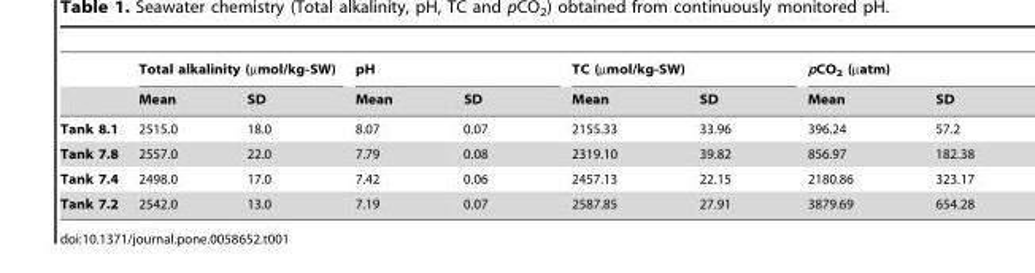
<table><thead><tr><td rowspan="2"></td><td colspan="2">Total alkalinity (µmol/kg-SW)</td><td colspan="2">pH</td><td colspan="2">TC (µmol/kg-SW)</td><td colspan="2">pCO<sub>2</sub> (µatm)</td></tr><tr><td>Mean</td><td>SD</td><td>Mean</td><td>SD</td><td>Mean</td><td>SD</td><td>Mean</td><td>SD</td></tr></thead><tbody><tr><td>Tank 8.1</td><td>2515.0</td><td>18.0</td><td>8.07</td><td>0.07</td><td>2155.33</td><td>33.96</td><td>396.24</td><td>57.2</td></tr><tr><td>Tank 7.8</td><td>2557.0</td><td>22.0</td><td>7.79</td><td>0.08</td><td>2319.10</td><td>39.82</td><td>856.97</td><td>182.38</td></tr><tr><td>Tank 7.4</td><td>2498.0</td><td>17.0</td><td>7.42</td><td>0.06</td><td>2457.13</td><td>22.15</td><td>2180.86</td><td>323.17</td></tr><tr><td>Tank 7.2</td><td>2542.0</td><td>13.0</td><td>7.19</td><td>0.07</td><td>2587.85</td><td>27.91</td><td>3879.69</td><td>654.28</td></tr></tbody></table>